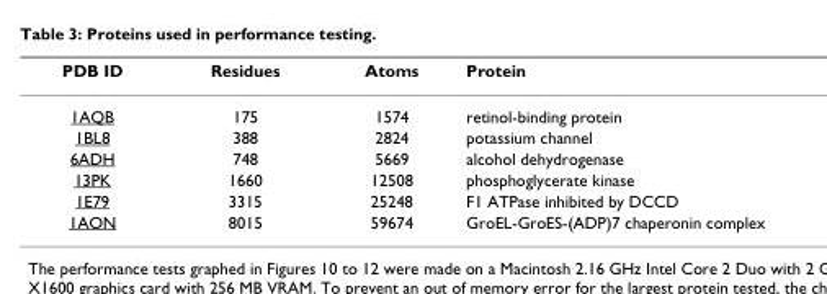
<table><thead><tr><td>PDB ID</td><td>Residues</td><td>Atoms</td><td>Protein</td></tr></thead><tbody><tr><td>1AQB</td><td>175</td><td>1574</td><td>retinol-binding protein</td></tr><tr><td>1BL8</td><td>388</td><td>2824</td><td>potassium channel</td></tr><tr><td>6ADH</td><td>748</td><td>5669</td><td>alcohol dehydrogenase</td></tr><tr><td>13PK</td><td>1660</td><td>12508</td><td>phosphoglycerate kinase</td></tr><tr><td>1E79</td><td>3315</td><td>25248</td><td>F1 ATPase inhibited by DCCD</td></tr><tr><td>1AON</td><td>8015</td><td>59674</td><td>GroEL-GroES-(ADP)7 chaperonin complex</td></tr></tbody></table>